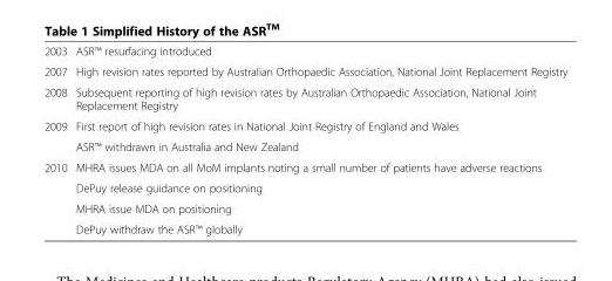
<table><tbody><tr><td>2003</td><td>ASR™ resurfacing introduced</td></tr><tr><td>2007</td><td>High revision rates reported by Australian Orthopaedic Association, National Joint Replacement Registry</td></tr><tr><td>2008</td><td>Subsequent reporting of high revision rates by Australian Orthopaedic Association, National Joint Replacement Registry</td></tr><tr><td rowspan="2">2009</td><td>First report of high revision rates in National Joint Registry of England and Wales</td></tr><tr><td>ASR™ withdrawn in Australia and New Zealand</td></tr><tr><td rowspan="4">2010</td><td>MHRA issues MDA on all MoM implants noting a small number of patients have adverse reactions</td></tr><tr><td>DePuy release guidance on positioning</td></tr><tr><td>MHRA issue MDA on positioning</td></tr><tr><td>DePuy withdraw the ASR™ globally</td></tr></tbody></table>